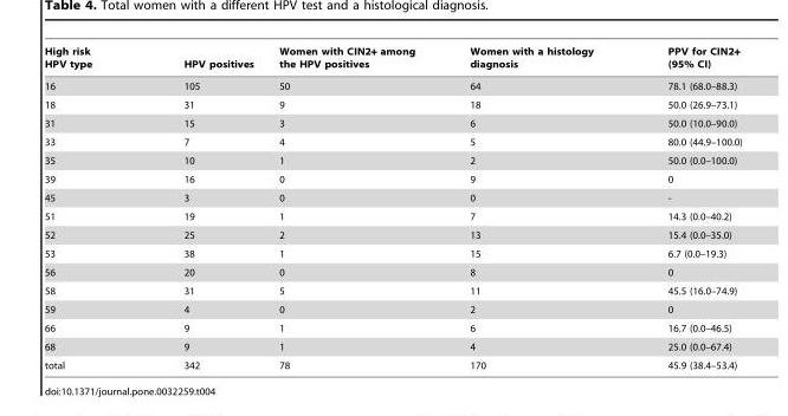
<table><thead><tr><td>High risk HPV type</td><td>HPV positives</td><td>Women with CIN2+ among the HPV positives</td><td>Women with a histology diagnosis</td><td>PPV for CIN2+ (95% CI)</td></tr></thead><tbody><tr><td>16</td><td>105</td><td>50</td><td>64</td><td>78.1 (68.0–88.3)</td></tr><tr><td>18</td><td>31</td><td>9</td><td>18</td><td>50.0 (26.9–73.1)</td></tr><tr><td>31</td><td>15</td><td>3</td><td>6</td><td>50.0 (10.0–90.0)</td></tr><tr><td>33</td><td>7</td><td>4</td><td>5</td><td>80.0 (44.9–100.0)</td></tr><tr><td>35</td><td>10</td><td>1</td><td>2</td><td>50.0 (0.0–100.0)</td></tr><tr><td>39</td><td>16</td><td>0</td><td>9</td><td>0</td></tr><tr><td>45</td><td>3</td><td>0</td><td>0</td><td>-</td></tr><tr><td>51</td><td>19</td><td>1</td><td>7</td><td>14.3 (0.0–40.2)</td></tr><tr><td>52</td><td>25</td><td>2</td><td>13</td><td>15.4 (0.0–35.0)</td></tr><tr><td>53</td><td>38</td><td>1</td><td>15</td><td>6.7 (0.0–19.3)</td></tr><tr><td>56</td><td>20</td><td>0</td><td>8</td><td>0</td></tr><tr><td>58</td><td>31</td><td>5</td><td>11</td><td>45.5 (16.0–74.9)</td></tr><tr><td>59</td><td>4</td><td>0</td><td>2</td><td>0</td></tr><tr><td>66</td><td>9</td><td>1</td><td>6</td><td>16.7 (0.0–46.5)</td></tr><tr><td>68</td><td>9</td><td>1</td><td>4</td><td>25.0 (0.0–67.4)</td></tr><tr><td>total</td><td>342</td><td>78</td><td>170</td><td>45.9 (38.4–53.4)</td></tr></tbody></table>